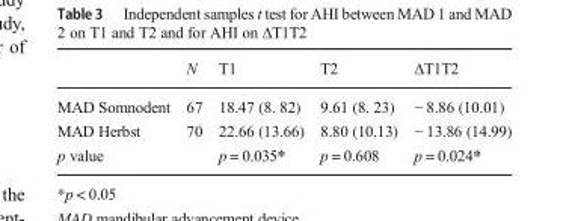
<table><thead><tr><td></td><td>N</td><td>T1</td><td>T2</td><td>ΔT1T2</td></tr></thead><tbody><tr><td>MAD Somnodent</td><td>67</td><td>18.47 (8. 82)</td><td>9.61 (8. 23)</td><td>− 8.86 (10.01)</td></tr><tr><td>MAD Herbst</td><td>70</td><td>22.66 (13.66)</td><td>8.80 (10.13)</td><td>− 13.86 (14.99)</td></tr><tr><td>p value</td><td></td><td>p = 0.035*</td><td>p = 0.608</td><td>p = 0.024*</td></tr></tbody></table>